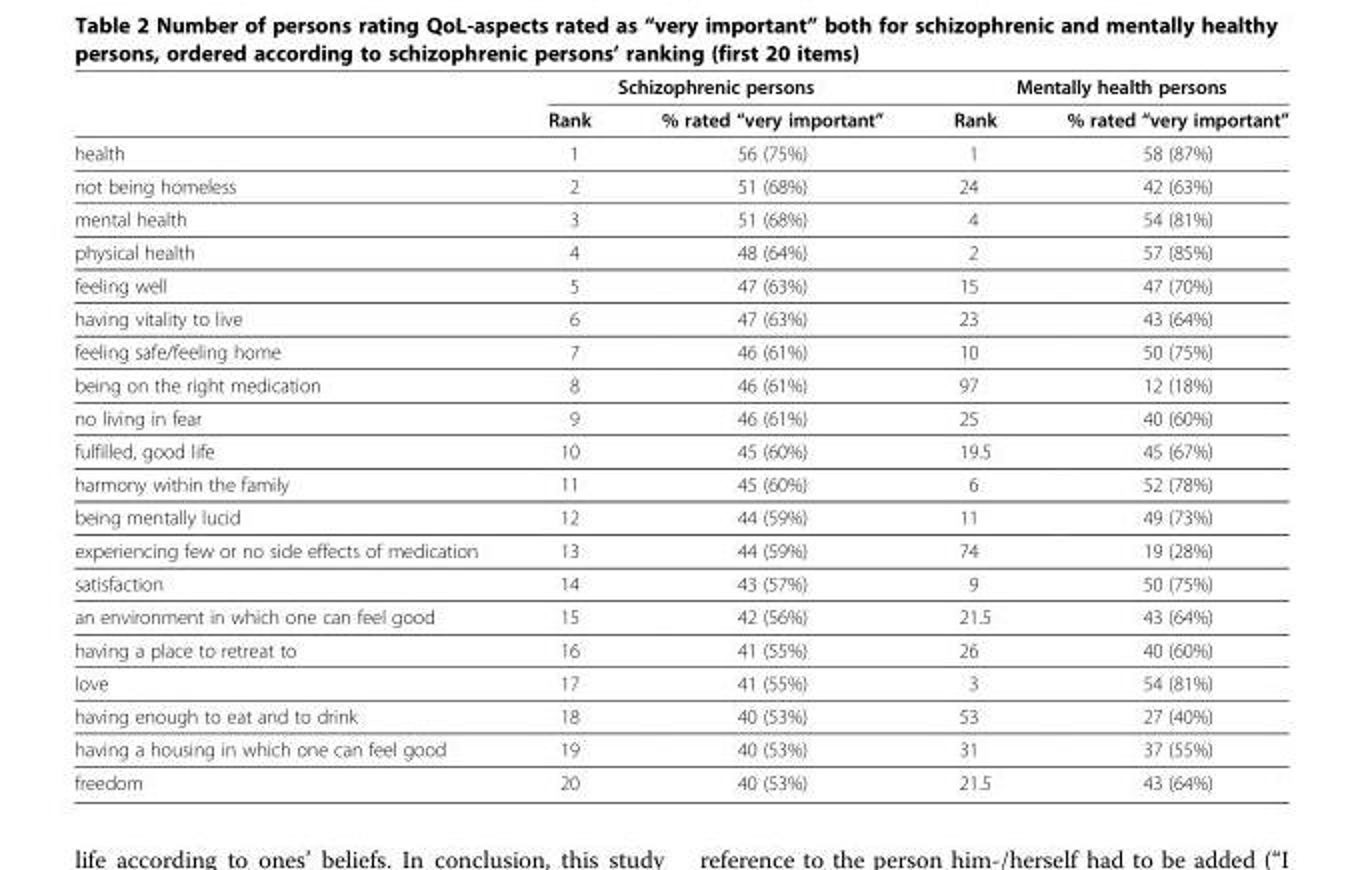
<table><thead><tr><td rowspan="2"></td><td colspan="2">Schizophrenic persons</td><td colspan="2">Mentally health persons</td></tr><tr><td>Rank</td><td>% rated “very important”</td><td>Rank</td><td>% rated “very important”</td></tr></thead><tbody><tr><td>health</td><td>1</td><td>56 (75%)</td><td>1</td><td>58 (87%)</td></tr><tr><td>not being homeless</td><td>2</td><td>51 (68%)</td><td>24</td><td>42 (63%)</td></tr><tr><td>mental health</td><td>3</td><td>51 (68%)</td><td>4</td><td>54 (81%)</td></tr><tr><td>physical health</td><td>4</td><td>48 (64%)</td><td>2</td><td>57 (85%)</td></tr><tr><td>feeling well</td><td>5</td><td>47 (63%)</td><td>15</td><td>47 (70%)</td></tr><tr><td>having vitality to live</td><td>6</td><td>47 (63%)</td><td>23</td><td>43 (64%)</td></tr><tr><td>feeling safe/feeling home</td><td>7</td><td>46 (61%)</td><td>10</td><td>50 (75%)</td></tr><tr><td>being on the right medication</td><td>8</td><td>46 (61%)</td><td>97</td><td>12 (18%)</td></tr><tr><td>no living in fear</td><td>9</td><td>46 (61%)</td><td>25</td><td>40 (60%)</td></tr><tr><td>fulfilled, good life</td><td>10</td><td>45 (60%)</td><td>19.5</td><td>45 (67%)</td></tr><tr><td>harmony within the family</td><td>11</td><td>45 (60%)</td><td>6</td><td>52 (78%)</td></tr><tr><td>being mentally lucid</td><td>12</td><td>44 (59%)</td><td>11</td><td>49 (73%)</td></tr><tr><td>experiencing few or no side effects of medication</td><td>13</td><td>44 (59%)</td><td>74</td><td>19 (28%)</td></tr><tr><td>satisfaction</td><td>14</td><td>43 (57%)</td><td>9</td><td>50 (75%)</td></tr><tr><td>an environment in which one can feel good</td><td>15</td><td>42 (56%)</td><td>21.5</td><td>43 (64%)</td></tr><tr><td>having a place to retreat to</td><td>16</td><td>41 (55%)</td><td>26</td><td>40 (60%)</td></tr><tr><td>love</td><td>17</td><td>41 (55%)</td><td>3</td><td>54 (81%)</td></tr><tr><td>having enough to eat and to drink</td><td>18</td><td>40 (53%)</td><td>53</td><td>27 (40%)</td></tr><tr><td>having a housing in which one can feel good</td><td>19</td><td>40 (53%)</td><td>31</td><td>37 (55%)</td></tr><tr><td>freedom</td><td>20</td><td>40 (53%)</td><td>21.5</td><td>43 (64%)</td></tr></tbody></table>